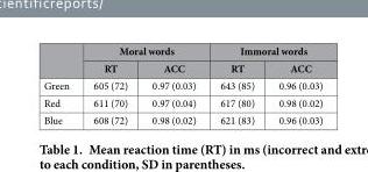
<table><thead><tr><td rowspan="2"></td><td colspan="2">Moral words</td><td colspan="2">Immoral words</td></tr><tr><td>RT</td><td>ACC</td><td>RT</td><td>ACC</td></tr></thead><tbody><tr><td>Green</td><td>605 (72)</td><td>0.97 (0.03)</td><td>643 (85)</td><td>0.96 (0.03)</td></tr><tr><td>Red</td><td>611 (70)</td><td>0.97 (0.04)</td><td>617 (80)</td><td>0.98 (0.02)</td></tr><tr><td>Blue</td><td>608 (72)</td><td>0.98 (0.02)</td><td>621 (83)</td><td>0.96 (0.03)</td></tr></tbody></table>